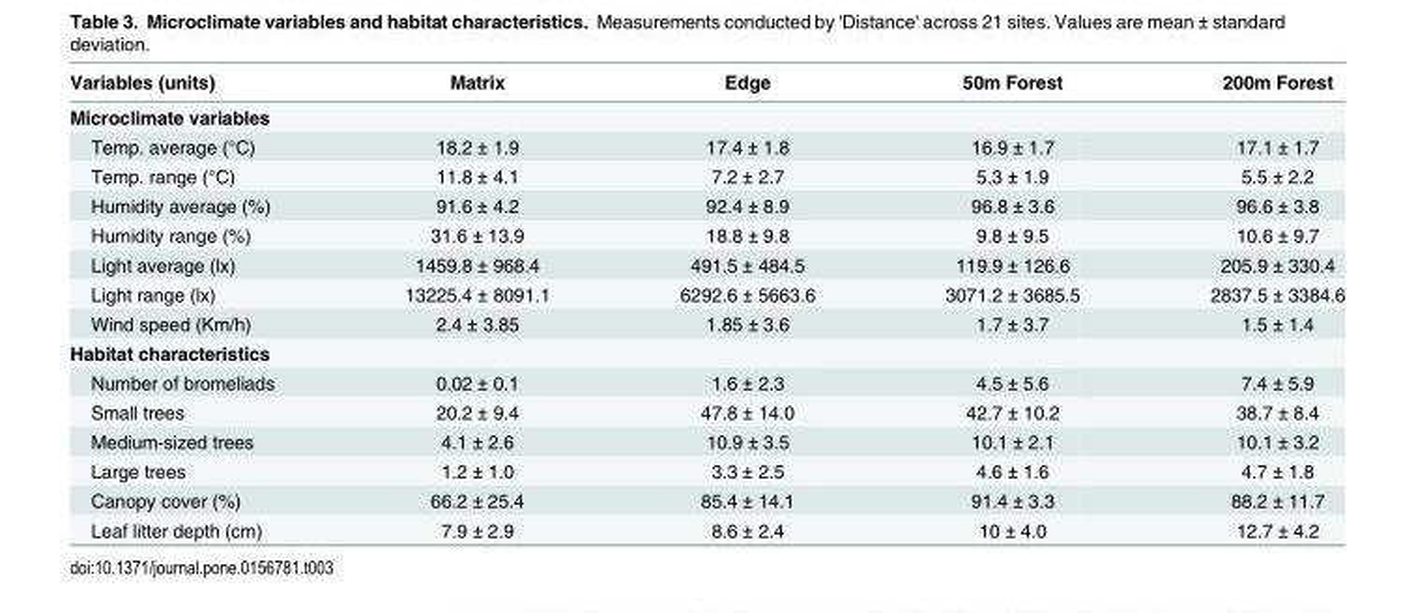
<table><thead><tr><td>Variables (units)</td><td>Matrix</td><td>Edge</td><td>50m Forest</td><td>200m Forest</td></tr></thead><tbody><tr><td colspan="5">Microclimate variables</td></tr><tr><td>Temp. average (°C)</td><td>18.2 ± 1.9</td><td>17.4 ± 1.8</td><td>16.9 ± 1.7</td><td>17.1 ± 1.7</td></tr><tr><td>Temp. range (°C)</td><td>11.8 ± 4.1</td><td>7.2 ± 2.7</td><td>5.3 ± 1.9</td><td>5.5 ± 2.2</td></tr><tr><td>Humidity average (%)</td><td>91.6 ± 4.2</td><td>92.4 ± 8.9</td><td>96.8 ± 3.6</td><td>96.6 ± 3.8</td></tr><tr><td>Humidity range (%)</td><td>31.6 ± 13.9</td><td>18.8 ± 9.8</td><td>9.8 ± 9.5</td><td>10.6 ± 9.7</td></tr><tr><td>Light average (lx)</td><td>1459.8 ± 968.4</td><td>491.5 ± 484.5</td><td>119.9 ± 126.6</td><td>205.9 ± 330.4</td></tr><tr><td>Light range (lx)</td><td>13225.4 ± 8091.1</td><td>6292.6 ± 5663.6</td><td>3071.2 ± 3685.5</td><td>2837.5 ± 3384.6</td></tr><tr><td>Wind speed (Km/h)</td><td>2.4 ± 3.85</td><td>1.85 ± 3.6</td><td>1.7 ± 3.7</td><td>1.5 ± 1.4</td></tr><tr><td colspan="5">Habitat characteristics</td></tr><tr><td>Number of bromeliads</td><td>0.02 ± 0.1</td><td>1.6 ± 2.3</td><td>4.5 ± 5.6</td><td>7.4 ± 5.9</td></tr><tr><td>Small trees</td><td>20.2 ± 9.4</td><td>47.8 ± 14.0</td><td>42.7 ± 10.2</td><td>38.7 ± 8.4</td></tr><tr><td>Medium-sized trees</td><td>4.1 ± 2.6</td><td>10.9 ± 3.5</td><td>10.1 ± 2.1</td><td>10.1 ± 3.2</td></tr><tr><td>Large trees</td><td>1.2 ± 1.0</td><td>3.3 ± 2.5</td><td>4.6 ± 1.6</td><td>4.7 ± 1.8</td></tr><tr><td>Canopy cover (%)</td><td>66.2 ± 25.4</td><td>85.4 ± 14.1</td><td>91.4 ± 3.3</td><td>88.2 ± 11.7</td></tr><tr><td>Leaf litter depth (cm)</td><td>7.9 ± 2.9</td><td>8.6 ± 2.4</td><td>10 ± 4.0</td><td>12.7 ± 4.2</td></tr></tbody></table>